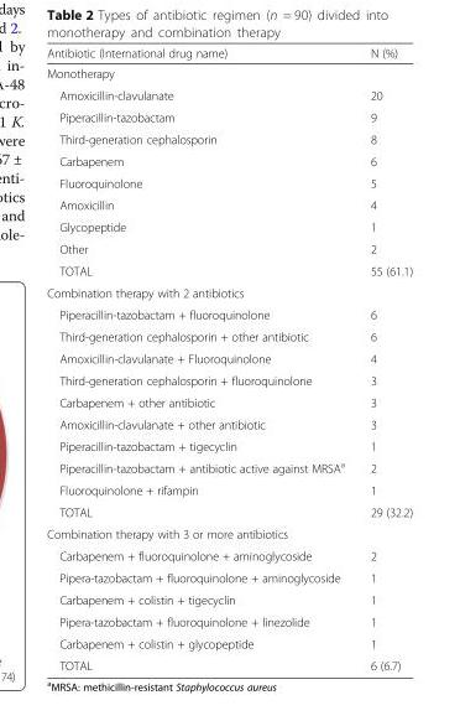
<table><thead><tr><td>Antibiotic (International drug name)</td><td>N (%)</td></tr></thead><tbody><tr><td colspan="2">Monotherapy</td></tr><tr><td>Amoxicillin-clavulanate</td><td>20</td></tr><tr><td>Piperacillin-tazobactam</td><td>9</td></tr><tr><td>Third-generation cephalosporin</td><td>8</td></tr><tr><td>Carbapenem</td><td>6</td></tr><tr><td>Fluoroquinolone</td><td>5</td></tr><tr><td>Amoxicillin</td><td>4</td></tr><tr><td>Glycopeptide</td><td>1</td></tr><tr><td>Other</td><td>2</td></tr><tr><td>TOTAL</td><td>55 (61.1)</td></tr><tr><td colspan="2">Combination therapy with 2 antibiotics</td></tr><tr><td>Piperacillin-tazobactam + fluoroquinolone</td><td>6</td></tr><tr><td>Third-generation cephalosporin + other antibiotic</td><td>6</td></tr><tr><td>Amoxicillin-clavulanate + Fluoroquinolone</td><td>4</td></tr><tr><td>Third-generation cephalosporin + fluoroquinolone</td><td>3</td></tr><tr><td>Carbapenem + other antibiotic</td><td>3</td></tr><tr><td>Amoxicillin-clavulanate + other antibiotic</td><td>3</td></tr><tr><td>Piperacillin-tazobactam + tigecyclin</td><td>1</td></tr><tr><td>Piperacillin-tazobactam + antibiotic active against MRSA<sup>a</sup></td><td>2</td></tr><tr><td>Fluoroquinolone + rifampin</td><td>1</td></tr><tr><td>TOTAL</td><td>29 (32.2)</td></tr><tr><td colspan="2">Combination therapy with 3 or more antibiotics</td></tr><tr><td>Carbapenem + fluoroquinolone + aminoglycoside</td><td>2</td></tr><tr><td>Pipera-tazobactam + fluoroquinolone + aminoglycoside</td><td>1</td></tr><tr><td>Carbapenem + colistin + tigecyclin</td><td>1</td></tr><tr><td>Pipera-tazobactam + fluoroquinolone + linezolide</td><td>1</td></tr><tr><td>Carbapenem + colistin + glycopeptide</td><td>1</td></tr><tr><td>TOTAL</td><td>6 (6.7)</td></tr></tbody></table>